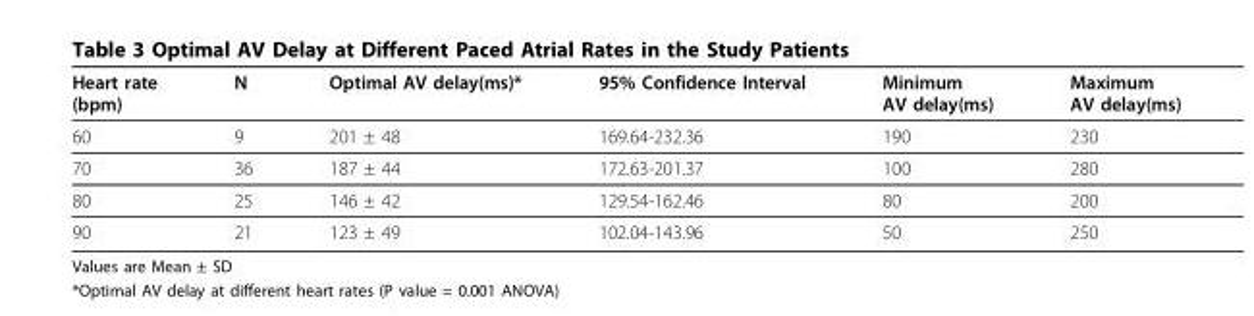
<table><thead><tr><td>Heart rate (bpm)</td><td>N</td><td>Optimal AV delay(ms)*</td><td>95% Confidence Interval</td><td>Minimum AV delay(ms)</td><td>Maximum AV delay(ms)</td></tr></thead><tbody><tr><td>60</td><td>9</td><td>201 ± 48</td><td>169.64-232.36</td><td>190</td><td>230</td></tr><tr><td>70</td><td>36</td><td>187 ± 44</td><td>172.63-201.37</td><td>100</td><td>280</td></tr><tr><td>80</td><td>25</td><td>146 ± 42</td><td>129.54-162.46</td><td>80</td><td>200</td></tr><tr><td>90</td><td>21</td><td>123 ± 49</td><td>102.04-143.96</td><td>50</td><td>250</td></tr></tbody></table>